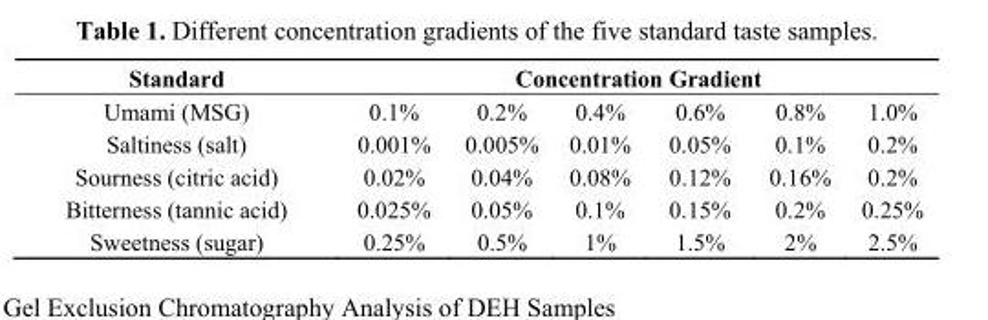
<table><thead><tr><td rowspan="2">Standard Umami (MSG)</td><td colspan="6">Concentration Gradient</td></tr><tr><td>0.1%</td><td>0.2%</td><td>0.4%</td><td>0.6%</td><td>0.8%</td><td>1.0%</td></tr></thead><tbody><tr><td>Saltiness (salt)</td><td>0.001%</td><td>0.005%</td><td>0.01%</td><td>0.05%</td><td>0.1%</td><td>0.2%</td></tr><tr><td>Sourness (citric acid)</td><td>0.02%</td><td>0.04%</td><td>0.08%</td><td>0.12%</td><td>0.16%</td><td>0.2%</td></tr><tr><td>Bitterness (tannic acid)</td><td>0.025%</td><td>0.05%</td><td>0.1%</td><td>0.15%</td><td>0.2%</td><td>0.25%</td></tr><tr><td>Sweetness (sugar)</td><td>0.25%</td><td>0.5%</td><td>1%</td><td>1.5%</td><td>2%</td><td>2.5%</td></tr></tbody></table>